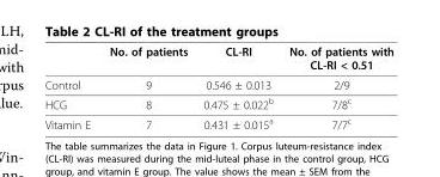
<table><thead><tr><td></td><td>No. of patients</td><td>CL-RI</td><td>No. of patients with CL-RI &lt; 0.51</td></tr></thead><tbody><tr><td>Control</td><td>9</td><td>0.546 ± 0.013</td><td>2/9</td></tr><tr><td>HCG</td><td>8</td><td>0.475 ± 0.022<sup>b</sup></td><td>7/8<sup>c</sup></td></tr><tr><td>Vitamin E</td><td>7</td><td>0.431 ± 0.015<sup>a</sup></td><td>7/7<sup>c</sup></td></tr></tbody></table>